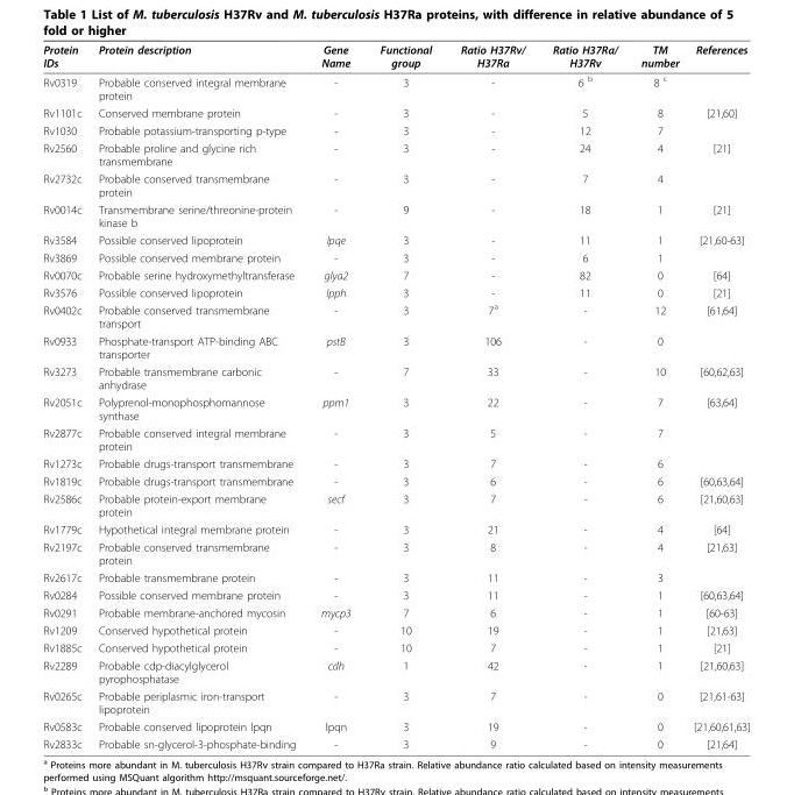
<table><thead><tr><td>Protein IDs</td><td>Protein description</td><td>Gene Name</td><td>Functional group</td><td>Ratio H37Rv/ H37Ra</td><td>Ratio H37Ra/ H37Rv</td><td>TM number</td><td>References</td></tr></thead><tbody><tr><td>Rv0319</td><td>Probable conserved integral membrane protein</td><td>-</td><td>3</td><td>-</td><td>6 <sup>b</sup></td><td>8 <sup>c</sup></td><td></td></tr><tr><td>Rv1101c</td><td>Conserved membrane protein</td><td>-</td><td>3</td><td>-</td><td>5</td><td>8</td><td>[21,60]</td></tr><tr><td>Rv1030</td><td>Probable potassium-transporting p-type</td><td>-</td><td>3</td><td>-</td><td>12</td><td>7</td><td></td></tr><tr><td>Rv2560</td><td>Probable proline and glycine rich transmembrane</td><td>-</td><td>3</td><td>-</td><td>24</td><td>4</td><td>[21]</td></tr><tr><td>Rv2732c</td><td>Probable conserved transmembrane protein</td><td>-</td><td>3</td><td>-</td><td>7</td><td>4</td><td></td></tr><tr><td>Rv0014c</td><td>Transmembrane serine/threonine-protein kinase b</td><td>-</td><td>9</td><td>-</td><td>18</td><td>1</td><td>[21]</td></tr><tr><td>Rv3584</td><td>Possible conserved lipoprotein</td><td>lpqe</td><td>3</td><td>-</td><td>11</td><td>1</td><td>[21,60-63]</td></tr><tr><td>Rv3869</td><td>Possible conserved membrane protein</td><td>-</td><td>3</td><td>-</td><td>6</td><td>1</td><td></td></tr><tr><td>Rv0070c</td><td>Probable serine hydroxymethyltransferase</td><td>glya2</td><td>7</td><td>-</td><td>82</td><td>0</td><td>[64]</td></tr><tr><td>Rv3576</td><td>Possible conserved lipoprotein</td><td>lpph</td><td>3</td><td>-</td><td>11</td><td>0</td><td>[21]</td></tr><tr><td>Rv0402c</td><td>Probable conserved transmembrane transport</td><td>-</td><td>3</td><td>7<sup>a</sup></td><td>-</td><td>12</td><td>[61,64]</td></tr><tr><td>Rv0933</td><td>Phosphate-transport ATP-binding ABC transporter</td><td>pstB</td><td>3</td><td>106</td><td>-</td><td>0</td><td></td></tr><tr><td>Rv3273</td><td>Probable transmembrane carbonic anhydrase</td><td>-</td><td>7</td><td>33</td><td>-</td><td>10</td><td>[60,62,63]</td></tr><tr><td>Rv2051c</td><td>Polyprenol-monophosphomannose synthase</td><td>ppm1</td><td>3</td><td>22</td><td>-</td><td>7</td><td>[63,64]</td></tr><tr><td>Rv2877c</td><td>Probable conserved integral membrane protein</td><td>-</td><td>3</td><td>5</td><td>-</td><td>7</td><td></td></tr><tr><td>Rv1273c</td><td>Probable drugs-transport transmembrane</td><td>-</td><td>3</td><td>7</td><td>-</td><td>6</td><td></td></tr><tr><td>Rv1819c</td><td>Probable drugs-transport transmembrane</td><td>-</td><td>3</td><td>6</td><td>-</td><td>6</td><td>[60,63,64]</td></tr><tr><td>Rv2586c</td><td>Probable protein-export membrane protein</td><td>secf</td><td>3</td><td>7</td><td>-</td><td>6</td><td>[21,60,63]</td></tr><tr><td>Rv1779c</td><td>Hypothetical integral membrane protein</td><td>-</td><td>3</td><td>21</td><td>-</td><td>4</td><td>[64]</td></tr><tr><td>Rv2197c</td><td>Probable conserved transmembrane protein</td><td>-</td><td>3</td><td>8</td><td>-</td><td>4</td><td>[21,63]</td></tr><tr><td>Rv2617c</td><td>Probable transmembrane protein</td><td>-</td><td>3</td><td>11</td><td>-</td><td>3</td><td></td></tr><tr><td>Rv0284</td><td>Possible conserved membrane protein</td><td>-</td><td>3</td><td>11</td><td>-</td><td>1</td><td>[60,63,64]</td></tr><tr><td>Rv0291</td><td>Probable membrane-anchored mycosin</td><td>mycp3</td><td>7</td><td>6</td><td>-</td><td>1</td><td>[60-63]</td></tr><tr><td>Rv1209</td><td>Conserved hypothetical protein</td><td>-</td><td>10</td><td>19</td><td>-</td><td>1</td><td>[21,63]</td></tr><tr><td>Rv1885c</td><td>Conserved hypothetical protein</td><td>-</td><td>10</td><td>7</td><td>-</td><td>1</td><td>[21]</td></tr><tr><td>Rv2289</td><td>Probable cdp-diacylglycerol pyrophosphatase</td><td>cdh</td><td>1</td><td>42</td><td>-</td><td>1</td><td>[21,60,63]</td></tr><tr><td>Rv0265c</td><td>Probable periplasmic iron-transport lipoprotein</td><td>-</td><td>3</td><td>7</td><td>-</td><td>0</td><td>[21,61-63]</td></tr><tr><td>Rv0583c</td><td>Probable conserved lipoprotein lpqn</td><td>lpqn</td><td>3</td><td>19</td><td>-</td><td>0</td><td>[21,60,61,63]</td></tr><tr><td>Rv2833c</td><td>Probable sn-glycerol-3-phosphate-binding</td><td>-</td><td>3</td><td>9</td><td>-</td><td>0</td><td>[21,64]</td></tr></tbody></table>